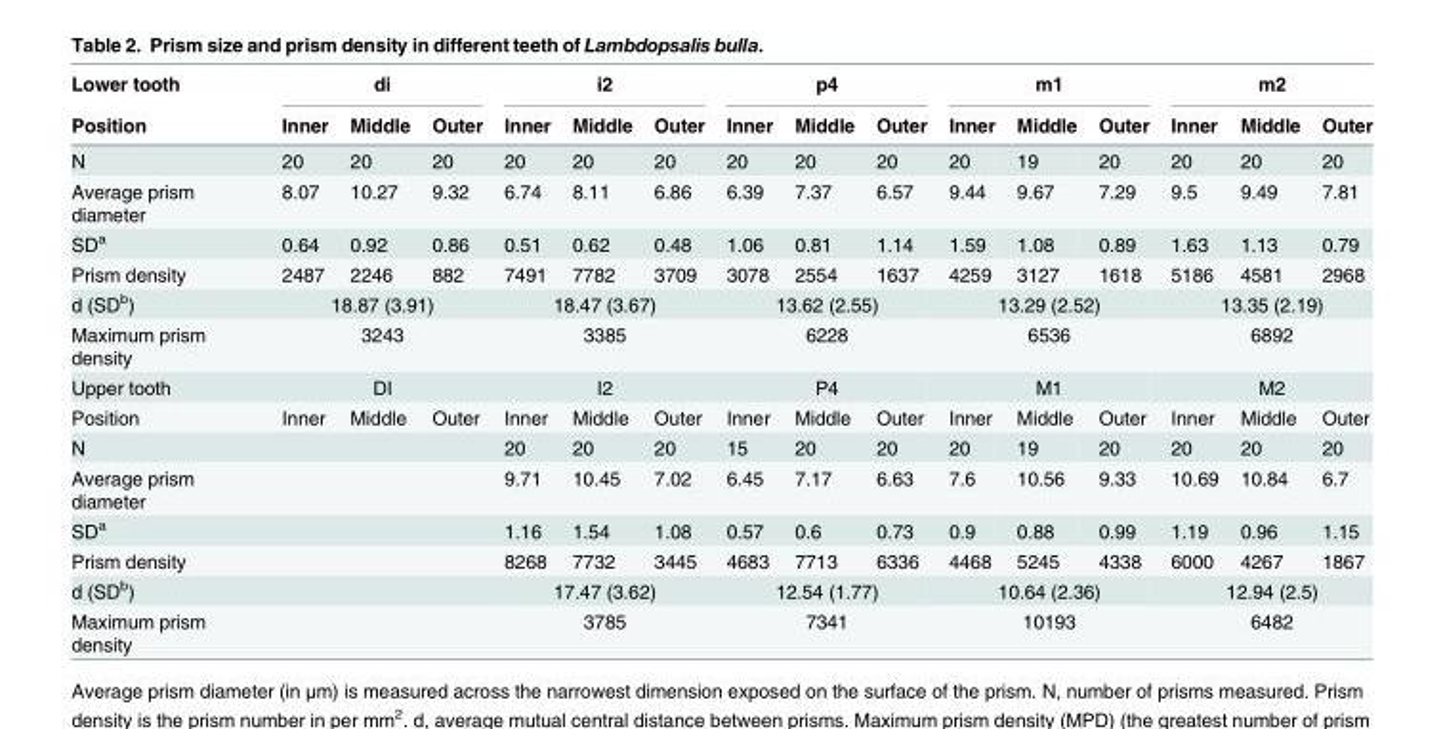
<table><thead><tr><td rowspan="2">Lower tooth Position</td><td colspan="3">di</td><td colspan="3">i2</td><td colspan="3">p4</td><td colspan="3">m1</td><td colspan="3">m2</td></tr><tr><td>Inner</td><td>Middle</td><td>Outer</td><td>Inner</td><td>Middle</td><td>Outer</td><td>Inner</td><td>Middle</td><td>Outer</td><td>Inner</td><td>Middle</td><td>Outer</td><td>Inner</td><td>Middle</td><td>Outer</td></tr></thead><tbody><tr><td>N</td><td>20</td><td>20</td><td>20</td><td>20</td><td>20</td><td>20</td><td>20</td><td>20</td><td>20</td><td>20</td><td>19</td><td>20</td><td>20</td><td>20</td><td>20</td></tr><tr><td>Average prism diameter</td><td>8.07</td><td>10.27</td><td>9.32</td><td>6.74</td><td>8.11</td><td>6.86</td><td>6.39</td><td>7.37</td><td>6.57</td><td>9.44</td><td>9.67</td><td>7.29</td><td>9.5</td><td>9.49</td><td>7.81</td></tr><tr><td>SD<sup>a</sup></td><td>0.64</td><td>0.92</td><td>0.86</td><td>0.51</td><td>0.62</td><td>0.48</td><td>1.06</td><td>0.81</td><td>1.14</td><td>1.59</td><td>1.08</td><td>0.89</td><td>1.63</td><td>1.13</td><td>0.79</td></tr><tr><td>Prism density</td><td>2487</td><td>2246</td><td>882</td><td>7491</td><td>7782</td><td>3709</td><td>3078</td><td>2554</td><td>1637</td><td>4259</td><td>3127</td><td>1618</td><td>5186</td><td>4581</td><td>2968</td></tr><tr><td>d (SD<sup>b</sup>)</td><td colspan="3">18.87 (3.91)</td><td colspan="3">18.47 (3.67)</td><td colspan="3">13.62 (2.55)</td><td colspan="3">13.29 (2.52)</td><td colspan="3">13.35 (2.19)</td></tr><tr><td>Maximum prism density</td><td colspan="3">3243</td><td colspan="3">3385</td><td colspan="3">6228</td><td colspan="3">6536</td><td colspan="3">6892</td></tr><tr><td>Upper tooth</td><td colspan="3">DI</td><td colspan="3">I2</td><td colspan="3">P4</td><td colspan="3">M1</td><td colspan="3">M2</td></tr><tr><td>Position</td><td>Inner</td><td>Middle</td><td>Outer</td><td>Inner</td><td>Middle</td><td>Outer</td><td>Inner</td><td>Middle</td><td>Outer</td><td>Inner</td><td>Middle</td><td>Outer</td><td>Inner</td><td>Middle</td><td>Outer</td></tr><tr><td>N</td><td></td><td></td><td></td><td>20</td><td>20</td><td>20</td><td>15</td><td>20</td><td>20</td><td>20</td><td>19</td><td>20</td><td>20</td><td>20</td><td>20</td></tr><tr><td>Average prism diameter</td><td></td><td></td><td></td><td>9.71</td><td>10.45</td><td>7.02</td><td>6.45</td><td>7.17</td><td>6.63</td><td>7.6</td><td>10.56</td><td>9.33</td><td>10.69</td><td>10.84</td><td>6.7</td></tr><tr><td>SD<sup>a</sup></td><td></td><td></td><td></td><td>1.16</td><td>1.54</td><td>1.08</td><td>0.57</td><td>0.6</td><td>0.73</td><td>0.9</td><td>0.88</td><td>0.99</td><td>1.19</td><td>0.96</td><td>1.15</td></tr><tr><td>Prism density</td><td></td><td></td><td></td><td>8268</td><td>7732</td><td>3445</td><td>4683</td><td>7713</td><td>6336</td><td>4468</td><td>5245</td><td>4338</td><td>6000</td><td>4267</td><td>1867</td></tr><tr><td>d (SD<sup>b</sup>)</td><td></td><td></td><td></td><td colspan="3">17.47 (3.62)</td><td colspan="3">12.54 (1.77)</td><td colspan="3">10.64 (2.36)</td><td colspan="3">12.94 (2.5)</td></tr><tr><td>Maximum prism density</td><td></td><td></td><td></td><td colspan="3">3785</td><td colspan="3">7341</td><td colspan="3">10193</td><td colspan="3">6482</td></tr></tbody></table>